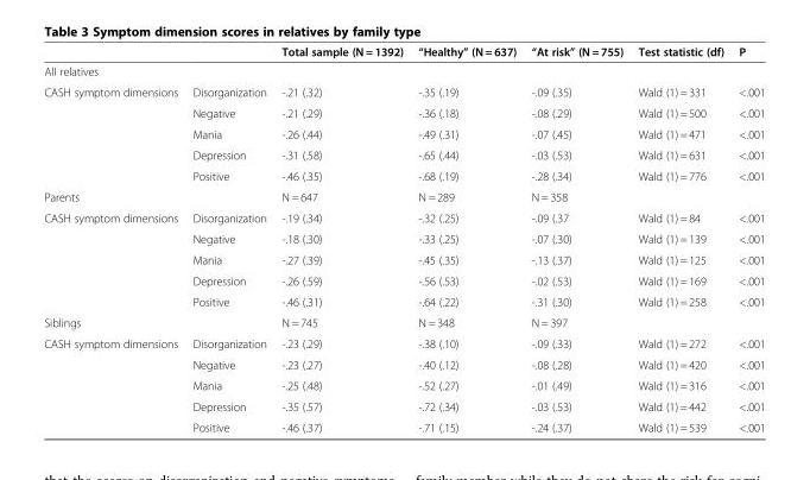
<table><thead><tr><td></td><td></td><td>Total sample (N = 1392)</td><td>“Healthy” (N = 637)</td><td>“At risk” (N = 755)</td><td>Test statistic (df)</td><td>P</td></tr></thead><tbody><tr><td colspan="7">All relatives</td></tr><tr><td rowspan="5">CASH symptom dimensions</td><td>Disorganization</td><td>-.21 (.32)</td><td>-.35 (.19)</td><td>-.09 (.35)</td><td>Wald (1) = 331</td><td>&lt;.001</td></tr><tr><td>Negative</td><td>-.21 (.29)</td><td>-.36 (.18)</td><td>-.08 (.29)</td><td>Wald (1) = 500</td><td>&lt;.001</td></tr><tr><td>Mania</td><td>-.26 (.44)</td><td>-.49 (.31)</td><td>-.07 (.45)</td><td>Wald (1) = 471</td><td>&lt;.001</td></tr><tr><td>Depression</td><td>-.31 (.58)</td><td>-.65 (.44)</td><td>-.03 (.53)</td><td>Wald (1) = 631</td><td>&lt;.001</td></tr><tr><td>Positive</td><td>-.46 (.35)</td><td>-.68 (.19)</td><td>-.28 (.34)</td><td>Wald (1) = 776</td><td>&lt;.001</td></tr><tr><td>Parents</td><td></td><td>N = 647</td><td>N = 289</td><td>N = 358</td><td></td><td></td></tr><tr><td rowspan="5">CASH symptom dimensions</td><td>Disorganization</td><td>-.19 (.34)</td><td>-.32 (.25)</td><td>-.09 (.37</td><td>Wald (1) = 84</td><td>&lt;.001</td></tr><tr><td>Negative</td><td>-.18 (.30)</td><td>-.33 (.25)</td><td>-.07 (.30)</td><td>Wald (1) = 139</td><td>&lt;.001</td></tr><tr><td>Mania</td><td>-.27 (.39)</td><td>-.45 (.35)</td><td>-.13 (.37)</td><td>Wald (1) = 125</td><td>&lt;.001</td></tr><tr><td>Depression</td><td>-.26 (.59)</td><td>-.56 (.53)</td><td>-.02 (.53)</td><td>Wald (1) = 169</td><td>&lt;.001</td></tr><tr><td>Positive</td><td>-.46 (.31)</td><td>-.64 (.22)</td><td>-.31 (.30)</td><td>Wald (1) = 258</td><td>&lt;.001</td></tr><tr><td>Siblings</td><td></td><td>N = 745</td><td>N = 348</td><td>N = 397</td><td></td><td></td></tr><tr><td rowspan="5">CASH symptom dimensions</td><td>Disorganization</td><td>-.23 (.29)</td><td>-.38 (.10)</td><td>-.09 (.33)</td><td>Wald (1) = 272</td><td>&lt;.001</td></tr><tr><td>Negative</td><td>-.23 (.27)</td><td>-.40 (.12)</td><td>-.08 (.28)</td><td>Wald (1) = 420</td><td>&lt;.001</td></tr><tr><td>Mania</td><td>-.25 (.48)</td><td>-.52 (.27)</td><td>-.01 (.49)</td><td>Wald (1) = 316</td><td>&lt;.001</td></tr><tr><td>Depression</td><td>-.35 (.57)</td><td>-.72 (.34)</td><td>-.03 (.53)</td><td>Wald (1) = 442</td><td>&lt;.001</td></tr><tr><td>Positive</td><td>-.46 (.37)</td><td>-.71 (.15)</td><td>-.24 (.37)</td><td>Wald (1) = 539</td><td>&lt;.001</td></tr></tbody></table>